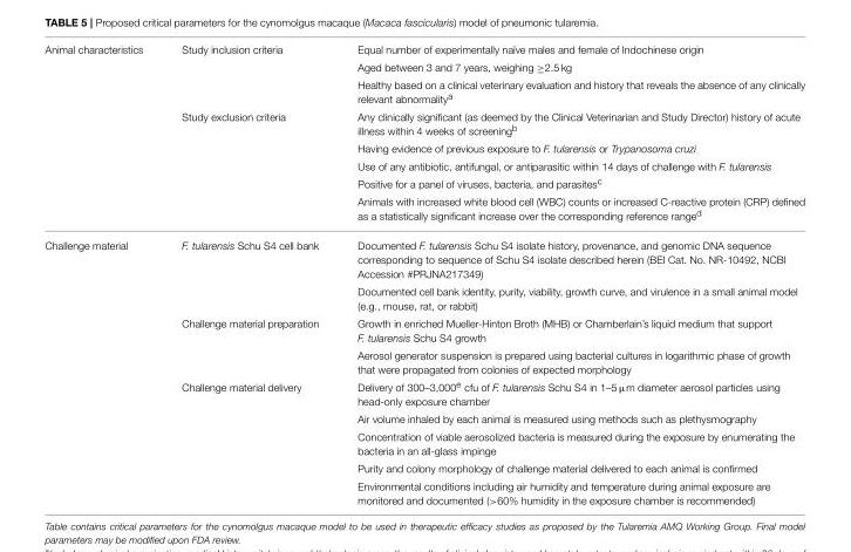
<table><tbody><tr><td rowspan="8">Animal characteristics</td><td>Study inclusion criteria</td><td>Equal number of experimentally naïve males and female of Indochinese origin</td></tr><tr><td></td><td>Aged between 3 and 7 years, weighing ≥2.5 kg</td></tr><tr><td></td><td>Healthy based on a clinical veterinary evaluation and history that reveals the absence of any clinically relevant abnormality<sup>a</sup></td></tr><tr><td>Study exclusion criteria</td><td>Any clinically significant (as deemed by the Clinical Veterinarian and Study Director) history of acute illness within 4 weeks of screening<sup>b</sup></td></tr><tr><td></td><td>Having evidence of previous exposure to F. tularensis or Trypanosoma cruzi</td></tr><tr><td></td><td>Use of any antibiotic, antifungal, or antiparasitic within 14 days of challenge with F. tularensis</td></tr><tr><td></td><td>Positive for a panel of viruses, bacteria, and parasites<sup>c</sup></td></tr><tr><td></td><td>Animals with increased white blood cell (WBC) counts or increased C-reactive protein (CRP) defined as a statistically significant increase over the corresponding reference range<sup>d</sup></td></tr><tr><td rowspan="9">Challenge material</td><td>F. tularensis Schu S4 cell bank</td><td>Documented F. tularensis Schu S4 isolate history, provenance, and genomic DNA sequence corresponding to sequence of Schu S4 isolate described herein (BEI Cat. No. NR-10492, NCBI Accession #PRJNA217349)</td></tr><tr><td></td><td>Documented cell bank identity, purity, viability, growth curve, and virulence in a small animal model (e.g., mouse, rat, or rabbit)</td></tr><tr><td>Challenge material preparation</td><td>Growth in enriched Mueller-Hinton Broth (MHB) or Chamberlain’s liquid medium that support F. tularensis Schu S4 growth</td></tr><tr><td></td><td>Aerosol generator suspension is prepared using bacterial cultures in logarithmic phase of growth that were propagated from colonies of expected morphology</td></tr><tr><td>Challenge material delivery</td><td>Delivery of 300–3,000<sup>e</sup> cfu of F. tularensis Schu S4 in 1–5 µm diameter aerosol particles using head-only exposure chamber</td></tr><tr><td></td><td>Air volume inhaled by each animal is measured using methods such as plethysmography</td></tr><tr><td></td><td>Concentration of viable aerosolized bacteria is measured during the exposure by enumerating the bacteria in an all-glass impinge</td></tr><tr><td></td><td>Purity and colony morphology of challenge material delivered to each animal is confirmed</td></tr><tr><td></td><td>Environmental conditions including air humidity and temperature during animal exposure are monitored and documented (&gt;60% humidity in the exposure chamber is recommended)</td></tr></tbody></table>